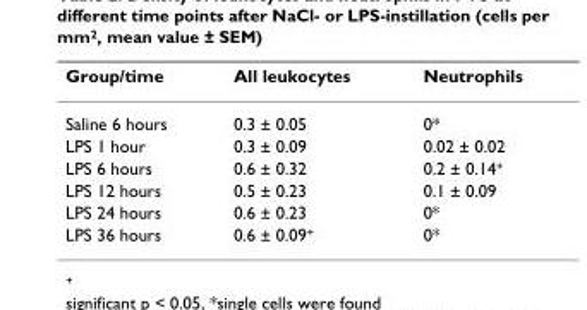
<table><thead><tr><td>Group/time</td><td>All leukocytes</td><td>Neutrophils</td></tr></thead><tbody><tr><td>Saline 6 hours</td><td>0.3 ± 0.05</td><td>0*</td></tr><tr><td>LPS 1 hour</td><td>0.3 ± 0.09</td><td>0.02 ± 0.02</td></tr><tr><td>LPS 6 hours</td><td>0.6 ± 0.32</td><td>0.2 ± 0.14<sup>+</sup></td></tr><tr><td>LPS 12 hours</td><td>0.5 ± 0.23</td><td>0.1 ± 0.09</td></tr><tr><td>LPS 24 hours</td><td>0.6 ± 0.23</td><td>0*</td></tr><tr><td>LPS 36 hours</td><td>0.6 ± 0.09<sup>+</sup></td><td>0*</td></tr></tbody></table>